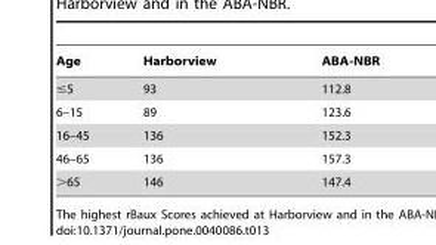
<table><thead><tr><td>Age</td><td>Harborview</td><td>ABA-NBR</td></tr></thead><tbody><tr><td>≤5</td><td>93</td><td>112.8</td></tr><tr><td>6–15</td><td>89</td><td>123.6</td></tr><tr><td>16–45</td><td>136</td><td>152.3</td></tr><tr><td>46–65</td><td>136</td><td>157.3</td></tr><tr><td>&gt;65</td><td>146</td><td>147.4</td></tr></tbody></table>